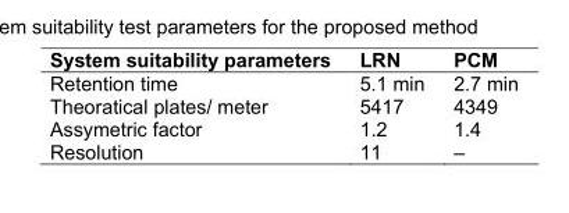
<table><thead><tr><td>System suitability parameters</td><td>LRN</td><td>PCM</td></tr></thead><tbody><tr><td>Retention time</td><td>5.1 min</td><td>2.7 min</td></tr><tr><td>Theoratical plates/ meter</td><td>5417</td><td>4349</td></tr><tr><td>Assymetric factor</td><td>1.2</td><td>1.4</td></tr><tr><td>Resolution</td><td>11</td><td>–</td></tr></tbody></table>